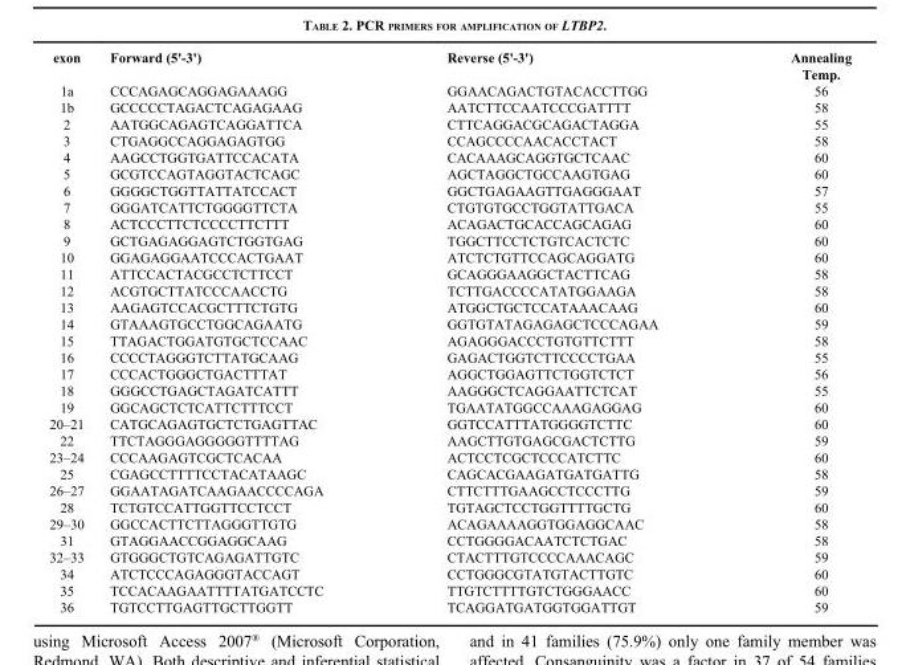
<table><thead><tr><td>exon</td><td>Forward (5&#x27;-3&#x27;)</td><td>Reverse (5&#x27;-3&#x27;)</td><td>Annealing Temp.</td></tr></thead><tbody><tr><td>1a</td><td>CCCAGAGCAGGAGAAAGG</td><td>GGAACAGACTGTACACCTTGG</td><td>56</td></tr><tr><td>1b</td><td>GCCCCCTAGACTCAGAGAAG</td><td>AATCTTCCAATCCCGATTTT</td><td>58</td></tr><tr><td>2</td><td>AATGGCAGAGTCAGGATTCA</td><td>CTTCAGGACGCAGACTAGGA</td><td>55</td></tr><tr><td>3</td><td>CTGAGGCCAGGAGAGTGG</td><td>CCAGCCCCAACACCTACT</td><td>58</td></tr><tr><td>4</td><td>AAGCCTGGTGATTCCACATA</td><td>CACAAAGCAGGTGCTCAAC</td><td>60</td></tr><tr><td>5</td><td>GCGTCCAGTAGGTACTCAGC</td><td>AGCTAGGCTGCCAAGTGAG</td><td>60</td></tr><tr><td>6</td><td>GGGGCTGGTTATTATCCACT</td><td>GGCTGAGAAGTTGAGGGAAT</td><td>57</td></tr><tr><td>7</td><td>GGGATCATTCTGGGGTTCTA</td><td>CTGTGTGCCTGGTATTGACA</td><td>55</td></tr><tr><td>8</td><td>ACTCCCTTCTCCCCTTCTTT</td><td>ACAGACTGCACCAGCAGAG</td><td>60</td></tr><tr><td>9</td><td>GCTGAGAGGAGTCTGGTGAG</td><td>TGGCTTCCTCTGTCACTCTC</td><td>60</td></tr><tr><td>10</td><td>GGAGAGGAATCCCACTGAAT</td><td>ATCTCTGTTCCAGCAGGATG</td><td>60</td></tr><tr><td>11</td><td>ATTCCACTACGCCTCTTCCT</td><td>GCAGGGAAGGCTACTTCAG</td><td>58</td></tr><tr><td>12</td><td>ACGTGCTTATCCCAACCTG</td><td>TCTTGACCCCATATGGAAGA</td><td>58</td></tr><tr><td>13</td><td>AAGAGTCCACGCTTTCTGTG</td><td>ATGGCTGCTCCATAAACAAG</td><td>60</td></tr><tr><td>14</td><td>GTAAAGTGCCTGGCAGAATG</td><td>GGTGTATAGAGAGCTCCCAGAA</td><td>59</td></tr><tr><td>15</td><td>TTAGACTGGATGTGCTCCAAC</td><td>AGAGGGACCCTGTGTTCTTT</td><td>58</td></tr><tr><td>16</td><td>CCCCTAGGGTCTTATGCAAG</td><td>GAGACTGGTCTTCCCCTGAA</td><td>55</td></tr><tr><td>17</td><td>CCCACTGGGCTGACTTTAT</td><td>AGGCTGGAGTTCTGGTCTCT</td><td>56</td></tr><tr><td>18</td><td>GGGCCTGAGCTAGATCATTT</td><td>AAGGGCTCAGGAATTCTCAT</td><td>55</td></tr><tr><td>19</td><td>GGCAGCTCTCATTCTTTCCT</td><td>TGAATATGGCCAAAGAGGAG</td><td>60</td></tr><tr><td>20–21</td><td>CATGCAGAGTGCTCTGAGTTAC</td><td>GGTCCATTTATGGGGTCTTC</td><td>60</td></tr><tr><td>22</td><td>TTCTAGGGAGGGGGTTTTAG</td><td>AAGCTTGTGAGCGACTCTTG</td><td>59</td></tr><tr><td>23–24</td><td>CCCAAGAGTCGCTCACAA</td><td>ACTCCTCGCTCCCATCTTC</td><td>60</td></tr><tr><td>25</td><td>CGAGCCTTTTCCTACATAAGC</td><td>CAGCACGAAGATGATGATTG</td><td>58</td></tr><tr><td>26–27</td><td>GGAATAGATCAAGAACCCCAGA</td><td>CTTCTTTGAAGCCTCCCTTG</td><td>59</td></tr><tr><td>28</td><td>TCTGTCCATTGGTTCCTCCT</td><td>TGTAGCTCCTGGTTTTGCTG</td><td>60</td></tr><tr><td>29–30</td><td>GGCCACTTCTTAGGGTTGTG</td><td>ACAGAAAAGGTGGAGGCAAC</td><td>58</td></tr><tr><td>31</td><td>GTAGGAACCGGAGGCAAG</td><td>CCTGGGGACAATCTCTGAC</td><td>58</td></tr><tr><td>32–33</td><td>GTGGGCTGTCAGAGATTGTC</td><td>CTACTTTGTCCCCAAACAGC</td><td>59</td></tr><tr><td>34</td><td>ATCTCCCAGAGGGTACCAGT</td><td>CCTGGGCGTATGTACTTGTC</td><td>60</td></tr><tr><td>35</td><td>TCCACAAGAATTTTATGATCCTC</td><td>TTGTCTTTTGTCTGGGAACC</td><td>60</td></tr><tr><td>36</td><td>TGTCCTTGAGTTGCTTGGTT</td><td>TCAGGATGATGGTGGATTGT</td><td>59</td></tr></tbody></table>